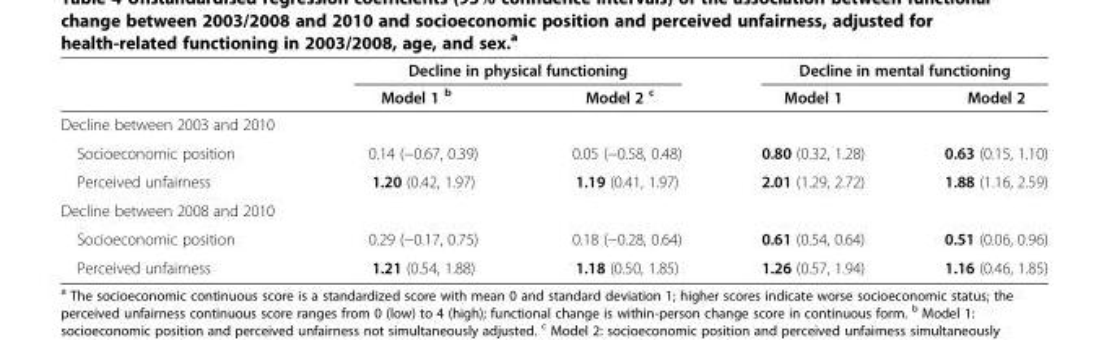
<table><thead><tr><td rowspan="2"></td><td colspan="2">Decline in physical functioning</td><td colspan="2">Decline in mental functioning</td></tr><tr><td>Model 1 <sup>b</sup></td><td>Model 2 <sup>c</sup></td><td>Model 1</td><td>Model 2</td></tr></thead><tbody><tr><td colspan="5">Decline between 2003 and 2010</td></tr><tr><td>Socioeconomic position</td><td>0.14 (−0.67, 0.39)</td><td>0.05 (−0.58, 0.48)</td><td>0.80 (0.32, 1.28)</td><td>0.63 (0.15, 1.10)</td></tr><tr><td>Perceived unfairness</td><td>1.20 (0.42, 1.97)</td><td>1.19 (0.41, 1.97)</td><td>2.01 (1.29, 2.72)</td><td>1.88 (1.16, 2.59)</td></tr><tr><td colspan="5">Decline between 2008 and 2010</td></tr><tr><td>Socioeconomic position</td><td>0.29 (−0.17, 0.75)</td><td>0.18 (−0.28, 0.64)</td><td>0.61 (0.54, 0.64)</td><td>0.51 (0.06, 0.96)</td></tr><tr><td>Perceived unfairness</td><td>1.21 (0.54, 1.88)</td><td>1.18 (0.50, 1.85)</td><td>1.26 (0.57, 1.94)</td><td>1.16 (0.46, 1.85)</td></tr></tbody></table>